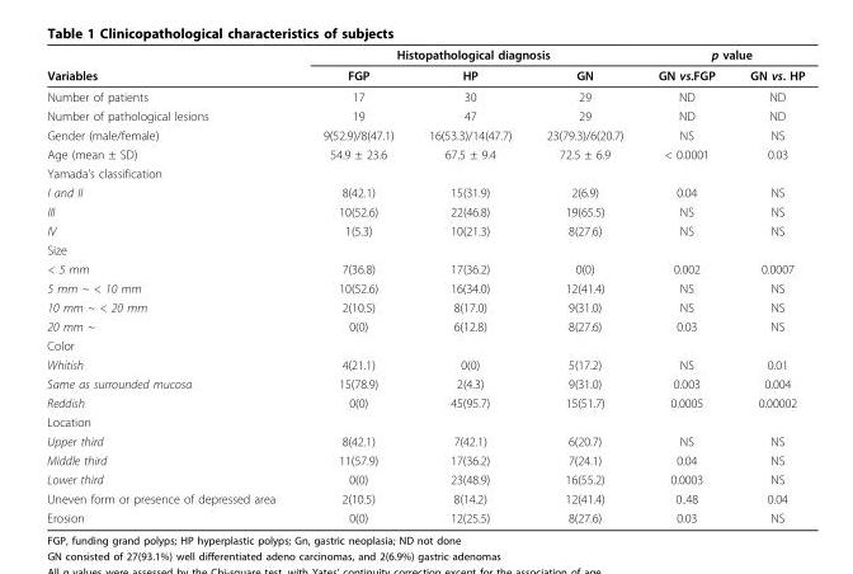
<table><thead><tr><td rowspan="2">Variables</td><td colspan="3">Histopathological diagnosis</td><td colspan="2">p value</td></tr><tr><td>FGP</td><td>HP</td><td>GN</td><td>GN vs.FGP</td><td>GN vs. HP</td></tr></thead><tbody><tr><td>Number of patients</td><td>17</td><td>30</td><td>29</td><td>ND</td><td>ND</td></tr><tr><td>Number of pathological lesions</td><td>19</td><td>47</td><td>29</td><td>ND</td><td>ND</td></tr><tr><td>Gender (male/female)</td><td>9(52.9)/8(47.1)</td><td>16(53.3)/14(47.7)</td><td>23(79.3)/6(20.7)</td><td>NS</td><td>NS</td></tr><tr><td>Age (mean ± SD)</td><td>54.9 ± 23.6</td><td>67.5 ± 9.4</td><td>72.5 ± 6.9</td><td>&lt; 0.0001</td><td>0.03</td></tr><tr><td colspan="6">Yamada’s classification</td></tr><tr><td>I and II</td><td>8(42.1)</td><td>15(31.9)</td><td>2(6.9)</td><td>0.04</td><td>NS</td></tr><tr><td>III</td><td>10(52.6)</td><td>22(46.8)</td><td>19(65.5)</td><td>NS</td><td>NS</td></tr><tr><td>IV</td><td>1(5.3)</td><td>10(21.3)</td><td>8(27.6)</td><td>NS</td><td>NS</td></tr><tr><td colspan="6">Size</td></tr><tr><td>&lt; 5 mm</td><td>7(36.8)</td><td>17(36.2)</td><td>0(0)</td><td>0.002</td><td>0.0007</td></tr><tr><td>5 mm ~ &lt; 10 mm</td><td>10(52.6)</td><td>16(34.0)</td><td>12(41.4)</td><td>NS</td><td>NS</td></tr><tr><td>10 mm ~ &lt; 20 mm</td><td>2(10.5)</td><td>8(17.0)</td><td>9(31.0)</td><td>NS</td><td>NS</td></tr><tr><td>20 mm ~</td><td>0(0)</td><td>6(12.8)</td><td>8(27.6)</td><td>0.03</td><td>NS</td></tr><tr><td colspan="6">Color</td></tr><tr><td>Whitish</td><td>4(21.1)</td><td>0(0)</td><td>5(17.2)</td><td>NS</td><td>0.01</td></tr><tr><td>Same as surrounded mucosa</td><td>15(78.9)</td><td>2(4.3)</td><td>9(31.0)</td><td>0.003</td><td>0.004</td></tr><tr><td>Reddish</td><td>0(0)</td><td>45(95.7)</td><td>15(51.7)</td><td>0.0005</td><td>0.00002</td></tr><tr><td colspan="6">Location</td></tr><tr><td>Upper third</td><td>8(42.1)</td><td>7(42.1)</td><td>6(20.7)</td><td>NS</td><td>NS</td></tr><tr><td>Middle third</td><td>11(57.9)</td><td>17(36.2)</td><td>7(24.1)</td><td>0.04</td><td>NS</td></tr><tr><td>Lower third</td><td>0(0)</td><td>23(48.9)</td><td>16(55.2)</td><td>0.0003</td><td>NS</td></tr><tr><td>Uneven form or presence of depressed area</td><td>2(10.5)</td><td>8(14.2)</td><td>12(41.4)</td><td>0..48</td><td>0.04</td></tr><tr><td>Erosion</td><td>0(0)</td><td>12(25.5)</td><td>8(27.6)</td><td>0.03</td><td>NS</td></tr></tbody></table>